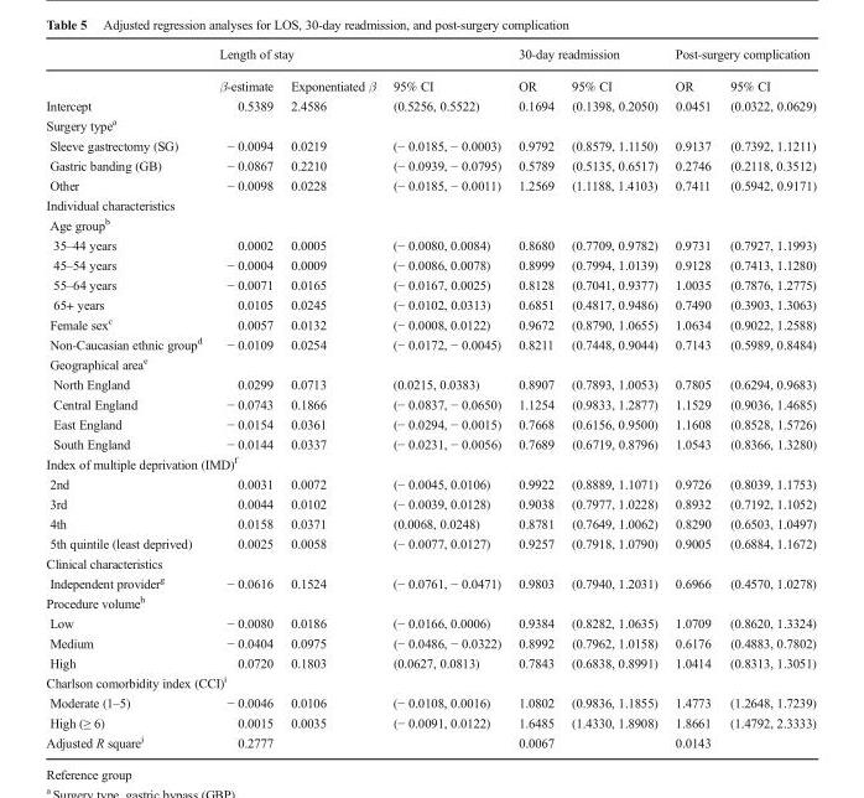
<table><thead><tr><td rowspan="2"></td><td colspan="3">Length of stay</td><td colspan="2">30-day readmission</td><td colspan="2">Post-surgery complication</td></tr><tr><td>β-estimate</td><td>Exponentiated β</td><td>95% CI</td><td>OR</td><td>95% CI</td><td>OR</td><td>95% CI</td></tr></thead><tbody><tr><td>Intercept</td><td>0.5389</td><td>2.4586</td><td>(0.5256, 0.5522)</td><td>0.1694</td><td>(0.1398, 0.2050)</td><td>0.0451</td><td>(0.0322, 0.0629)</td></tr><tr><td colspan="8">Surgery type<sup>a</sup></td></tr><tr><td>Sleeve gastrectomy (SG)</td><td>− 0.0094</td><td>0.0219</td><td>(− 0.0185, − 0.0003)</td><td>0.9792</td><td>(0.8579, 1.1150)</td><td>0.9137</td><td>(0.7392, 1.1211)</td></tr><tr><td>Gastric banding (GB)</td><td>− 0.0867</td><td>0.2210</td><td>(− 0.0939, − 0.0795)</td><td>0.5789</td><td>(0.5135, 0.6517)</td><td>0.2746</td><td>(0.2118, 0.3512)</td></tr><tr><td>Other</td><td>− 0.0098</td><td>0.0228</td><td>(− 0.0185, − 0.0011)</td><td>1.2569</td><td>(1.1188, 1.4103)</td><td>0.7411</td><td>(0.5942, 0.9171)</td></tr><tr><td colspan="8">Individual characteristics</td></tr><tr><td colspan="8">Age group<sup>b</sup></td></tr><tr><td>35–44 years</td><td>0.0002</td><td>0.0005</td><td>(− 0.0080, 0.0084)</td><td>0.8680</td><td>(0.7709, 0.9782)</td><td>0.9731</td><td>(0.7927, 1.1993)</td></tr><tr><td>45–54 years</td><td>− 0.0004</td><td>0.0009</td><td>(− 0.0086, 0.0078)</td><td>0.8999</td><td>(0.7994, 1.0139)</td><td>0.9128</td><td>(0.7413, 1.1280)</td></tr><tr><td>55–64 years</td><td>− 0.0071</td><td>0.0165</td><td>(− 0.0167, 0.0025)</td><td>0.8128</td><td>(0.7041, 0.9377)</td><td>1.0035</td><td>(0.7876, 1.2775)</td></tr><tr><td>65+ years</td><td>0.0105</td><td>0.0245</td><td>(− 0.0102, 0.0313)</td><td>0.6851</td><td>(0.4817, 0.9486)</td><td>0.7490</td><td>(0.3903, 1.3063)</td></tr><tr><td>Female sex<sup>c</sup></td><td>0.0057</td><td>0.0132</td><td>(− 0.0008, 0.0122)</td><td>0.9672</td><td>(0.8790, 1.0655)</td><td>1.0634</td><td>(0.9022, 1.2588)</td></tr><tr><td>Non-Caucasian ethnic group<sup>d</sup></td><td>− 0.0109</td><td>0.0254</td><td>(− 0.0172, − 0.0045)</td><td>0.8211</td><td>(0.7448, 0.9044)</td><td>0.7143</td><td>(0.5989, 0.8484)</td></tr><tr><td colspan="8">Geographical area<sup>e</sup></td></tr><tr><td>North England</td><td>0.0299</td><td>0.0713</td><td>(0.0215, 0.0383)</td><td>0.8907</td><td>(0.7893, 1.0053)</td><td>0.7805</td><td>(0.6294, 0.9683)</td></tr><tr><td>Central England</td><td>− 0.0743</td><td>0.1866</td><td>(− 0.0837, − 0.0650)</td><td>1.1254</td><td>(0.9833, 1.2877)</td><td>1.1529</td><td>(0.9036, 1.4685)</td></tr><tr><td>East England</td><td>− 0.0154</td><td>0.0361</td><td>(− 0.0294, − 0.0015)</td><td>0.7668</td><td>(0.6156, 0.9500)</td><td>1.1608</td><td>(0.8528, 1.5726)</td></tr><tr><td>South England</td><td>− 0.0144</td><td>0.0337</td><td>(− 0.0231, − 0.0056)</td><td>0.7689</td><td>(0.6719, 0.8796)</td><td>1.0543</td><td>(0.8366, 1.3280)</td></tr><tr><td colspan="8">Index of multiple deprivation (IMD)<sup>f</sup></td></tr><tr><td>2nd</td><td>0.0031</td><td>0.0072</td><td>(− 0.0045, 0.0106)</td><td>0.9922</td><td>(0.8889, 1.1071)</td><td>0.9726</td><td>(0.8039, 1.1753)</td></tr><tr><td>3rd</td><td>0.0044</td><td>0.0102</td><td>(− 0.0039, 0.0128)</td><td>0.9038</td><td>(0.7977, 1.0228)</td><td>0.8932</td><td>(0.7192, 1.1052)</td></tr><tr><td>4th</td><td>0.0158</td><td>0.0371</td><td>(0.0068, 0.0248)</td><td>0.8781</td><td>(0.7649, 1.0062)</td><td>0.8290</td><td>(0.6503, 1.0497)</td></tr><tr><td>5th quintile (least deprived)</td><td>0.0025</td><td>0.0058</td><td>(− 0.0077, 0.0127)</td><td>0.9257</td><td>(0.7918, 1.0790)</td><td>0.9005</td><td>(0.6884, 1.1672)</td></tr><tr><td colspan="8">Clinical characteristics</td></tr><tr><td>Independent provider<sup>g</sup></td><td>− 0.0616</td><td>0.1524</td><td>(− 0.0761, − 0.0471)</td><td>0.9803</td><td>(0.7940, 1.2031)</td><td>0.6966</td><td>(0.4570, 1.0278)</td></tr><tr><td colspan="8">Procedure volume<sup>h</sup></td></tr><tr><td>Low</td><td>− 0.0080</td><td>0.0186</td><td>(− 0.0166, 0.0006)</td><td>0.9384</td><td>(0.8282, 1.0635)</td><td>1.0709</td><td>(0.8620, 1.3324)</td></tr><tr><td>Medium</td><td>− 0.0404</td><td>0.0975</td><td>(− 0.0486, − 0.0322)</td><td>0.8992</td><td>(0.7962, 1.0158)</td><td>0.6176</td><td>(0.4883, 0.7802)</td></tr><tr><td>High</td><td>0.0720</td><td>0.1803</td><td>(0.0627, 0.0813)</td><td>0.7843</td><td>(0.6838, 0.8991)</td><td>1.0414</td><td>(0.8313, 1.3051)</td></tr><tr><td colspan="8">Charlson comorbidity index (CCI)<sup>i</sup></td></tr><tr><td>Moderate (1–5)</td><td>− 0.0046</td><td>0.0106</td><td>(− 0.0108, 0.0016)</td><td>1.0802</td><td>(0.9836, 1.1855)</td><td>1.4773</td><td>(1.2648, 1.7239)</td></tr><tr><td>High (≥ 6)</td><td>0.0015</td><td>0.0035</td><td>(− 0.0091, 0.0122)</td><td>1.6485</td><td>(1.4330, 1.8908)</td><td>1.8661</td><td>(1.4792, 2.3333)</td></tr><tr><td>Adjusted R square<sup>j</sup></td><td>0.2777</td><td></td><td></td><td>0.0067</td><td></td><td>0.0143</td><td></td></tr></tbody></table>